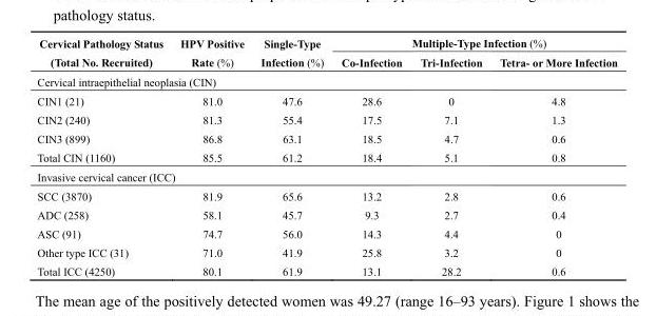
<table><thead><tr><td rowspan="2">Cervical Pathology Status (Total No. Recruited)</td><td rowspan="2">HPV Positive Rate (%)</td><td rowspan="2">Single-Type Infection (%)</td><td colspan="3">Multiple-Type Infection (%)</td></tr><tr><td>Co-Infection</td><td>Tri-Infection</td><td>Tetra- or More Infection</td></tr></thead><tbody><tr><td colspan="6">Cervical intraepithelial neoplasia (CIN)</td></tr><tr><td>CIN1 (21)</td><td>81.0</td><td>47.6</td><td>28.6</td><td>0</td><td>4.8</td></tr><tr><td>CIN2 (240)</td><td>81.3</td><td>55.4</td><td>17.5</td><td>7.1</td><td>1.3</td></tr><tr><td>CIN3 (899)</td><td>86.8</td><td>63.1</td><td>18.5</td><td>4.7</td><td>0.6</td></tr><tr><td>Total CIN (1160)</td><td>85.5</td><td>61.2</td><td>18.4</td><td>5.1</td><td>0.8</td></tr><tr><td colspan="6">Invasive cervical cancer (ICC)</td></tr><tr><td>SCC (3870)</td><td>81.9</td><td>65.6</td><td>13.2</td><td>2.8</td><td>0.6</td></tr><tr><td>ADC (258)</td><td>58.1</td><td>45.7</td><td>9.3</td><td>2.7</td><td>0.4</td></tr><tr><td>ASC (91)</td><td>74.7</td><td>56.0</td><td>14.3</td><td>4.4</td><td>0</td></tr><tr><td>Other type ICC (31)</td><td>71.0</td><td>41.9</td><td>25.8</td><td>3.2</td><td>0</td></tr><tr><td>Total ICC (4250)</td><td>80.1</td><td>61.9</td><td>13.1</td><td>28.2</td><td>0.6</td></tr></tbody></table>